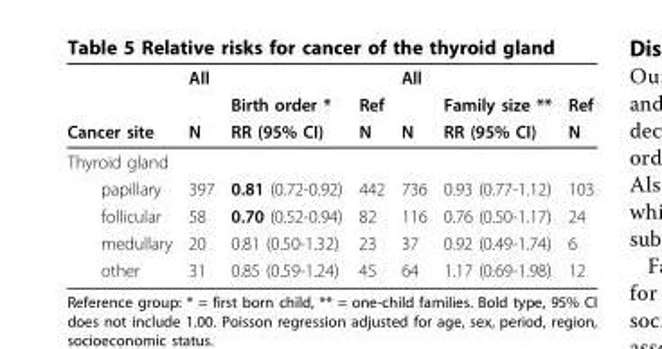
<table><thead><tr><td rowspan="3">Cancer site</td><td colspan="3">All</td><td colspan="3">All</td></tr><tr><td rowspan="2">N</td><td rowspan="2">Birth order * RR (95% CI)</td><td rowspan="2">Ref N</td><td rowspan="2">N</td><td rowspan="2">Family size ** RR (95% CI)</td><td rowspan="2">Ref N</td></tr><tr></tr></thead><tbody><tr><td colspan="7">Thyroid gland</td></tr><tr><td>papillary</td><td>397</td><td>0.81 (0.72-0.92)</td><td>442</td><td>736</td><td>0.93 (0.77-1.12)</td><td>103</td></tr><tr><td>follicular</td><td>58</td><td>0.70 (0.52-0.94)</td><td>82</td><td>116</td><td>0.76 (0.50-1.17)</td><td>24</td></tr><tr><td>medullary</td><td>20</td><td>0.81 (0.50-1.32)</td><td>23</td><td>37</td><td>0.92 (0.49-1.74)</td><td>6</td></tr><tr><td>other</td><td>31</td><td>0.85 (0.59-1.24)</td><td>45</td><td>64</td><td>1.17 (0.69-1.98)</td><td>12</td></tr></tbody></table>